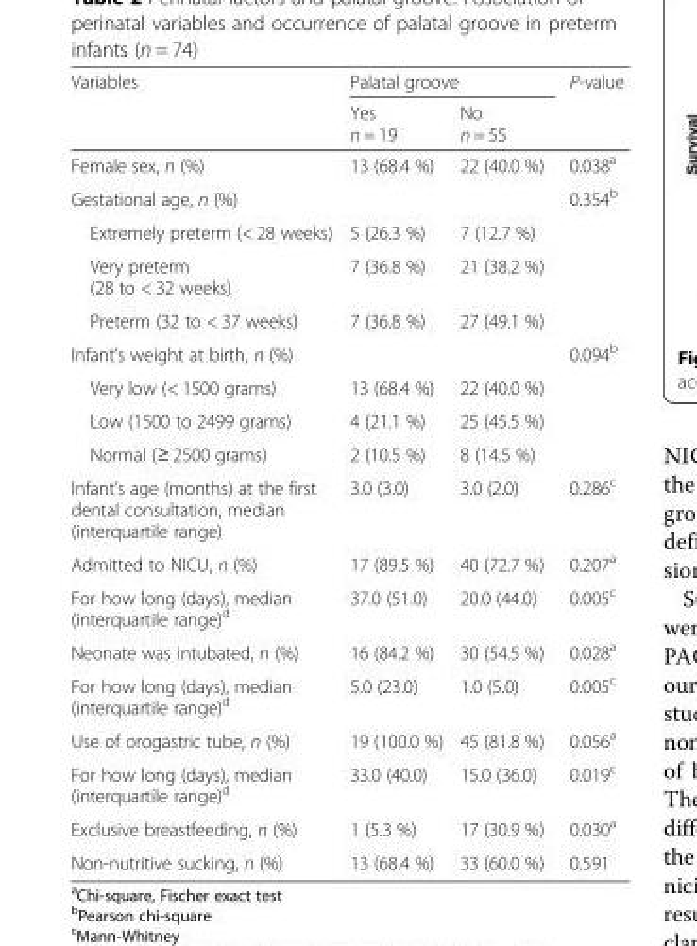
<table><thead><tr><td rowspan="2">Variables</td><td colspan="2">Palatal groove</td><td rowspan="2">P-value</td></tr><tr><td>Yes n = 19</td><td>No n = 55</td></tr></thead><tbody><tr><td>Female sex, n (%)</td><td>13 (68.4 %)</td><td>22 (40.0 %)</td><td>0.038<sup>a</sup></td></tr><tr><td>Gestational age, n (%)</td><td></td><td></td><td>0.354<sup>b</sup></td></tr><tr><td>Extremely preterm (&lt; 28 weeks)</td><td>5 (26.3 %)</td><td>7 (12.7 %)</td><td></td></tr><tr><td>Very preterm (28 to &lt; 32 weeks)</td><td>7 (36.8 %)</td><td>21 (38.2 %)</td><td></td></tr><tr><td>Preterm (32 to &lt; 37 weeks)</td><td>7 (36.8 %)</td><td>27 (49.1 %)</td><td></td></tr><tr><td>Infant’s weight at birth, n (%)</td><td></td><td></td><td>0.094<sup>b</sup></td></tr><tr><td>Very low (&lt; 1500 grams)</td><td>13 (68.4 %)</td><td>22 (40.0 %)</td><td></td></tr><tr><td>Low (1500 to 2499 grams)</td><td>4 (21.1 %)</td><td>25 (45.5 %)</td><td></td></tr><tr><td>Normal (≥ 2500 grams)</td><td>2 (10.5 %)</td><td>8 (14.5 %)</td><td></td></tr><tr><td>Infant’s age (months) at the first dental consultation, median (interquartile range)</td><td>3.0 (3.0)</td><td>3.0 (2.0)</td><td>0.286<sup>c</sup></td></tr><tr><td>Admitted to NICU, n (%)</td><td>17 (89.5 %)</td><td>40 (72.7 %)</td><td>0.207<sup>a</sup></td></tr><tr><td>For how long (days), median (interquartile range)<sup>d</sup></td><td>37.0 (51.0)</td><td>20.0 (44.0)</td><td>0.005<sup>c</sup></td></tr><tr><td>Neonate was intubated, n (%)</td><td>16 (84.2 %)</td><td>30 (54.5 %)</td><td>0.028<sup>a</sup></td></tr><tr><td>For how long (days), median (interquartile range)<sup>d</sup></td><td>5.0 (23.0)</td><td>1.0 (5.0)</td><td>0.005<sup>c</sup></td></tr><tr><td>Use of orogastric tube, n (%)</td><td>19 (100.0 %)</td><td>45 (81.8 %)</td><td>0.056<sup>a</sup></td></tr><tr><td>For how long (days), median (interquartile range)<sup>d</sup></td><td>33.0 (40.0)</td><td>15.0 (36.0)</td><td>0.019<sup>c</sup></td></tr><tr><td>Exclusive breastfeeding, n (%)</td><td>1 (5.3 %)</td><td>17 (30.9 %)</td><td>0.030<sup>a</sup></td></tr><tr><td>Non-nutritive sucking, n (%)</td><td>13 (68.4 %)</td><td>33 (60.0 %)</td><td>0.591</td></tr></tbody></table>